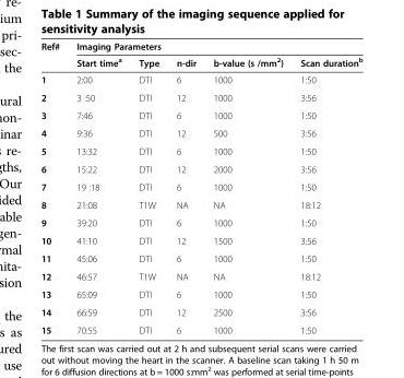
<table><thead><tr><td rowspan="2">Ref#</td><td colspan="5">Imaging Parameters</td></tr><tr><td>Start time<sup>a</sup></td><td>Type</td><td>n-dir</td><td>b-value (s /mm<sup>2</sup>)</td><td>Scan duration<sup>b</sup></td></tr></thead><tbody><tr><td>1</td><td>2:00</td><td>DTI</td><td>6</td><td>1000</td><td>1:50</td></tr><tr><td>2</td><td>3 :50</td><td>DTI</td><td>12</td><td>1000</td><td>3:56</td></tr><tr><td>3</td><td>7:46</td><td>DTI</td><td>6</td><td>1000</td><td>1:50</td></tr><tr><td>4</td><td>9:36</td><td>DTI</td><td>12</td><td>500</td><td>3:56</td></tr><tr><td>5</td><td>13:32</td><td>DTI</td><td>6</td><td>1000</td><td>1:50</td></tr><tr><td>6</td><td>15:22</td><td>DTI</td><td>12</td><td>2000</td><td>3:56</td></tr><tr><td>7</td><td>19 :18</td><td>DTI</td><td>6</td><td>1000</td><td>1:50</td></tr><tr><td>8</td><td>21:08</td><td>T1W</td><td>NA</td><td>NA</td><td>18:12</td></tr><tr><td>9</td><td>39:20</td><td>DTI</td><td>6</td><td>1000</td><td>1:50</td></tr><tr><td>10</td><td>41:10</td><td>DTI</td><td>12</td><td>1500</td><td>3:56</td></tr><tr><td>11</td><td>45:06</td><td>DTI</td><td>6</td><td>1000</td><td>1:50</td></tr><tr><td>12</td><td>46:57</td><td>T1W</td><td>NA</td><td>NA</td><td>18:12</td></tr><tr><td>13</td><td>65:09</td><td>DTI</td><td>6</td><td>1000</td><td>1:50</td></tr><tr><td>14</td><td>66:59</td><td>DTI</td><td>12</td><td>2500</td><td>3:56</td></tr><tr><td>15</td><td>70:55</td><td>DTI</td><td>6</td><td>1000</td><td>1:50</td></tr></tbody></table>